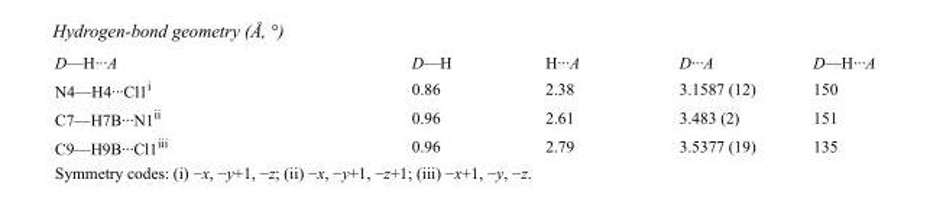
<table><tbody><tr><td>D—H···A</td><td>D—H</td><td>H···A</td><td>D···A</td><td>D—H···A</td></tr><tr><td>N4—H4···Cl1<sup>i</sup></td><td>0.86</td><td>2.38</td><td>3.1587 (12)</td><td>150</td></tr><tr><td>C7—H7B···N1<sup>ii</sup></td><td>0.96</td><td>2.61</td><td>3.483 (2)</td><td>151</td></tr><tr><td>C9—H9B···Cl1<sup>iii</sup></td><td>0.96</td><td>2.79</td><td>3.5377 (19)</td><td>135</td></tr></tbody></table>